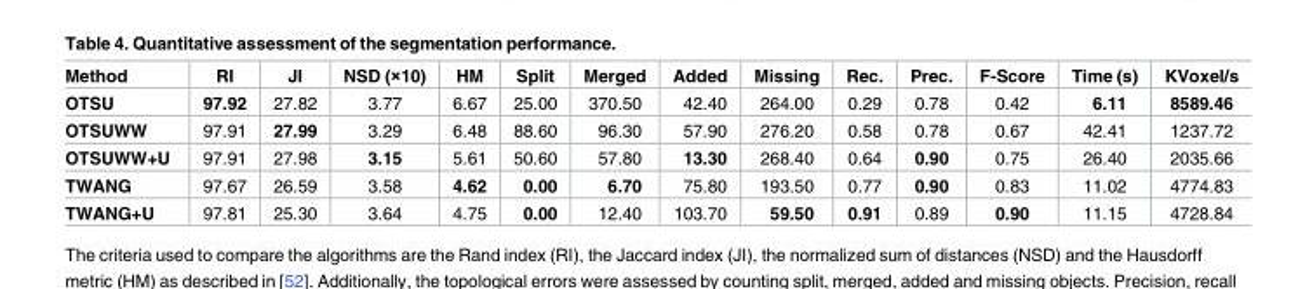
<table><thead><tr><td>Method</td><td>RI</td><td>JI</td><td>NSD (×10)</td><td>HM</td><td>Split</td><td>Merged</td><td>Added</td><td>Missing</td><td>Rec.</td><td>Prec.</td><td>F-Score</td><td>Time (s)</td><td>KVoxel/s</td></tr></thead><tbody><tr><td>OTSU</td><td>97.92</td><td>27.82</td><td>3.77</td><td>6.67</td><td>25.00</td><td>370.50</td><td>42.40</td><td>264.00</td><td>0.29</td><td>0.78</td><td>0.42</td><td>6.11</td><td>8589.46</td></tr><tr><td>OTSUWW</td><td>97.91</td><td>27.99</td><td>3.29</td><td>6.48</td><td>88.60</td><td>96.30</td><td>57.90</td><td>276.20</td><td>0.58</td><td>0.78</td><td>0.67</td><td>42.41</td><td>1237.72</td></tr><tr><td>OTSUWW+U</td><td>97.91</td><td>27.98</td><td>3.15</td><td>5.61</td><td>50.60</td><td>57.80</td><td>13.30</td><td>268.40</td><td>0.64</td><td>0.90</td><td>0.75</td><td>26.40</td><td>2035.66</td></tr><tr><td>TWANG</td><td>97.67</td><td>26.59</td><td>3.58</td><td>4.62</td><td>0.00</td><td>6.70</td><td>75.80</td><td>193.50</td><td>0.77</td><td>0.90</td><td>0.83</td><td>11.02</td><td>4774.83</td></tr><tr><td>TWANG+U</td><td>97.81</td><td>25.30</td><td>3.64</td><td>4.75</td><td>0.00</td><td>12.40</td><td>103.70</td><td>59.50</td><td>0.91</td><td>0.89</td><td>0.90</td><td>11.15</td><td>4728.84</td></tr></tbody></table>